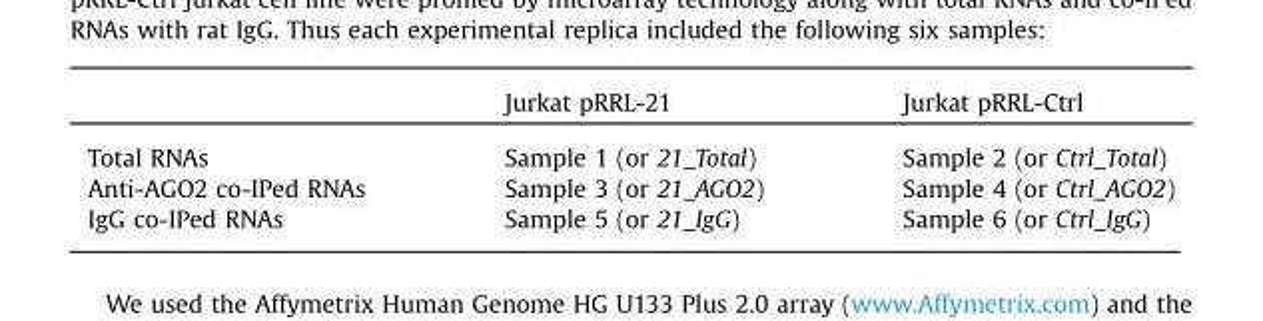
<table><thead><tr><td></td><td>Jurkat pRRL-21</td><td>Jurkat pRRL-Ctrl</td></tr></thead><tbody><tr><td>Total RNAs</td><td>Sample 1 (or 21_Total)</td><td>Sample 2 (or Ctrl_Total)</td></tr><tr><td>Anti-AGO2 co-IPed RNAs</td><td>Sample 3 (or 21_AGO2)</td><td>Sample 4 (or Ctrl_AGO2)</td></tr><tr><td>IgG co-IPed RNAs</td><td>Sample 5 (or 21_IgG)</td><td>Sample 6 (or Ctrl_IgG)</td></tr></tbody></table>